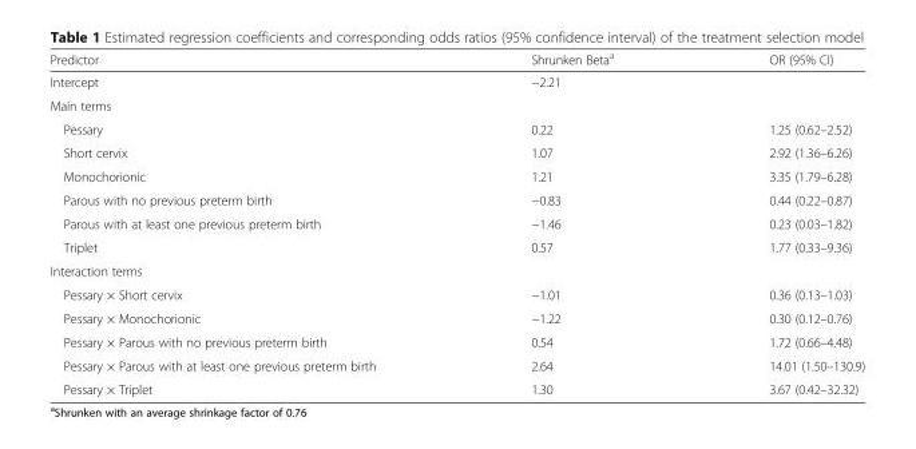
<table><thead><tr><td>Predictor</td><td>Shrunken Beta<sup>a</sup></td><td>OR (95% CI)</td></tr></thead><tbody><tr><td>Intercept</td><td>−2.21</td><td></td></tr><tr><td colspan="3">Main terms</td></tr><tr><td>Pessary</td><td>0.22</td><td>1.25 (0.62–2.52)</td></tr><tr><td>Short cervix</td><td>1.07</td><td>2.92 (1.36–6.26)</td></tr><tr><td>Monochorionic</td><td>1.21</td><td>3.35 (1.79–6.28)</td></tr><tr><td>Parous with no previous preterm birth</td><td>−0.83</td><td>0.44 (0.22–0.87)</td></tr><tr><td>Parous with at least one previous preterm birth</td><td>−1.46</td><td>0.23 (0.03–1.82)</td></tr><tr><td>Triplet</td><td>0.57</td><td>1.77 (0.33–9.36)</td></tr><tr><td colspan="3">Interaction terms</td></tr><tr><td>Pessary × Short cervix</td><td>−1.01</td><td>0.36 (0.13–1.03)</td></tr><tr><td>Pessary × Monochorionic</td><td>−1.22</td><td>0.30 (0.12–0.76)</td></tr><tr><td>Pessary × Parous with no previous preterm birth</td><td>0.54</td><td>1.72 (0.66–4.48)</td></tr><tr><td>Pessary × Parous with at least one previous preterm birth</td><td>2.64</td><td>14.01 (1.50–130.9)</td></tr><tr><td>Pessary × Triplet</td><td>1.30</td><td>3.67 (0.42–32.32)</td></tr></tbody></table>